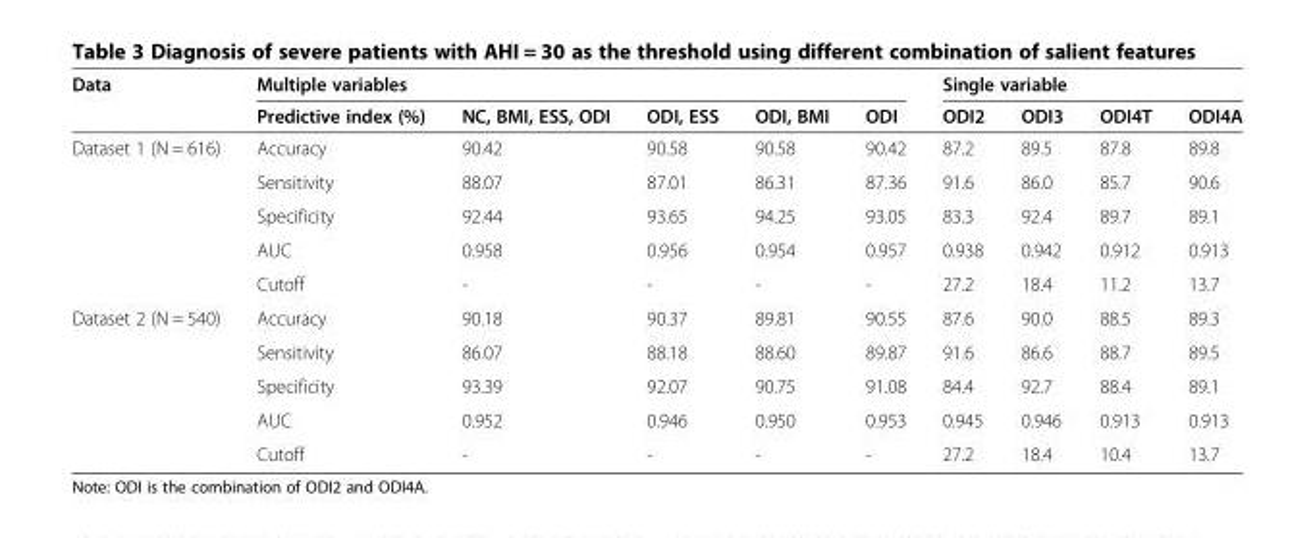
<table><thead><tr><td rowspan="2">Data</td><td colspan="5">Multiple variables</td><td colspan="4">Single variable</td></tr><tr><td>Predictive index (%)</td><td>NC, BMI, ESS, ODI</td><td>ODI, ESS</td><td>ODI, BMI</td><td>ODI</td><td>ODI2</td><td>ODI3</td><td>ODI4T</td><td>ODI4A</td></tr></thead><tbody><tr><td rowspan="5">Dataset 1 (N = 616)</td><td>Accuracy</td><td>90.42</td><td>90.58</td><td>90.58</td><td>90.42</td><td>87.2</td><td>89.5</td><td>87.8</td><td>89.8</td></tr><tr><td>Sensitivity</td><td>88.07</td><td>87.01</td><td>86.31</td><td>87.36</td><td>91.6</td><td>86.0</td><td>85.7</td><td>90.6</td></tr><tr><td>Specificity</td><td>92.44</td><td>93.65</td><td>94.25</td><td>93.05</td><td>83.3</td><td>92.4</td><td>89.7</td><td>89.1</td></tr><tr><td>AUC</td><td>0.958</td><td>0.956</td><td>0.954</td><td>0.957</td><td>0.938</td><td>0.942</td><td>0.912</td><td>0.913</td></tr><tr><td>Cutoff</td><td>-</td><td>-</td><td>-</td><td>-</td><td>27.2</td><td>18.4</td><td>11.2</td><td>13.7</td></tr><tr><td rowspan="5">Dataset 2 (N = 540)</td><td>Accuracy</td><td>90.18</td><td>90.37</td><td>89.81</td><td>90.55</td><td>87.6</td><td>90.0</td><td>88.5</td><td>89.3</td></tr><tr><td>Sensitivity</td><td>86.07</td><td>88.18</td><td>88.60</td><td>89.87</td><td>91.6</td><td>86.6</td><td>88.7</td><td>89.5</td></tr><tr><td>Specificity</td><td>93.39</td><td>92.07</td><td>90.75</td><td>91.08</td><td>84.4</td><td>92.7</td><td>88.4</td><td>89.1</td></tr><tr><td>AUC</td><td>0.952</td><td>0.946</td><td>0.950</td><td>0.953</td><td>0.945</td><td>0.946</td><td>0.913</td><td>0.913</td></tr><tr><td>Cutoff</td><td>-</td><td>-</td><td>-</td><td>-</td><td>27.2</td><td>18.4</td><td>10.4</td><td>13.7</td></tr></tbody></table>